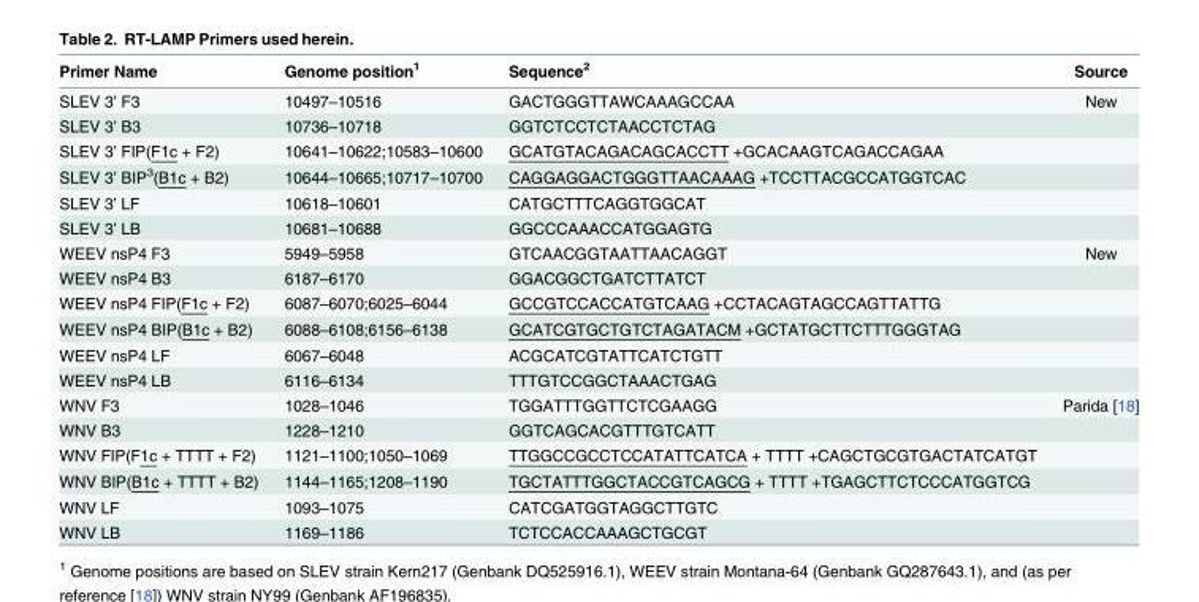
<table><thead><tr><td>Primer Name</td><td>Genome position<sup>1</sup></td><td>Sequence<sup>2</sup></td><td>Source</td></tr></thead><tbody><tr><td>SLEV 3’ F3</td><td>10497–10516</td><td>GACTGGGTTAWCAAAGCCAA</td><td>New</td></tr><tr><td>SLEV 3’ B3</td><td>10736–10718</td><td>GGTCTCCTCTAACCTCTAG</td><td></td></tr><tr><td>SLEV 3’ FIP(F1c + F2)</td><td>10641–10622;10583–10600</td><td>GCATGTACAGACAGCACCTT +GCACAAGTCAGACCAGAA</td><td></td></tr><tr><td>SLEV 3’ BIP<sup>3</sup>(B1c + B2)</td><td>10644–10665;10717–10700</td><td>CAGGAGGACTGGGTTAACAAAG +TCCTTACGCCATGGTCAC</td><td></td></tr><tr><td>SLEV 3’ LF</td><td>10618–10601</td><td>CATGCTTTCAGGTGGCAT</td><td></td></tr><tr><td>SLEV 3’ LB</td><td>10681–10688</td><td>GGCCCAAACCATGGAGTG</td><td></td></tr><tr><td>WEEV nsP4 F3</td><td>5949–5958</td><td>GTCAACGGTAATTAACAGGT</td><td>New</td></tr><tr><td>WEEV nsP4 B3</td><td>6187–6170</td><td>GGACGGCTGATCTTATCT</td><td></td></tr><tr><td>WEEV nsP4 FIP(F1c + F2)</td><td>6087–6070;6025–6044</td><td>GCCGTCCACCATGTCAAG +CCTACAGTAGCCAGTTATTG</td><td></td></tr><tr><td>WEEV nsP4 BIP(B1c + B2)</td><td>6088–6108;6156–6138</td><td>GCATCGTGCTGTCTAGATACM +GCTATGCTTCTTTGGGTAG</td><td></td></tr><tr><td>WEEV nsP4 LF</td><td>6067–6048</td><td>ACGCATCGTATTCATCTGTT</td><td></td></tr><tr><td>WEEV nsP4 LB</td><td>6116–6134</td><td>TTTGTCCGGCTAAACTGAG</td><td></td></tr><tr><td>WNV F3</td><td>1028–1046</td><td>TGGATTTGGTTCTCGAAGG</td><td>Parida [18]</td></tr><tr><td>WNV B3</td><td>1228–1210</td><td>GGTCAGCACGTTTGTCATT</td><td></td></tr><tr><td>WNV FIP(F1c + TTTT + F2)</td><td>1121–1100;1050–1069</td><td>TTGGCCGCCTCCATATTCATCA + TTTT +CAGCTGCGTGACTATCATGT</td><td></td></tr><tr><td>WNV BIP(B1c + TTTT + B2)</td><td>1144–1165;1208–1190</td><td>TGCTATTTGGCTACCGTCAGCG + TTTT +TGAGCTTCTCCCATGGTCG</td><td></td></tr><tr><td>WNV LF</td><td>1093–1075</td><td>CATCGATGGTAGGCTTGTC</td><td></td></tr><tr><td>WNV LB</td><td>1169–1186</td><td>TCTCCACCAAAGCTGCGT</td><td></td></tr></tbody></table>